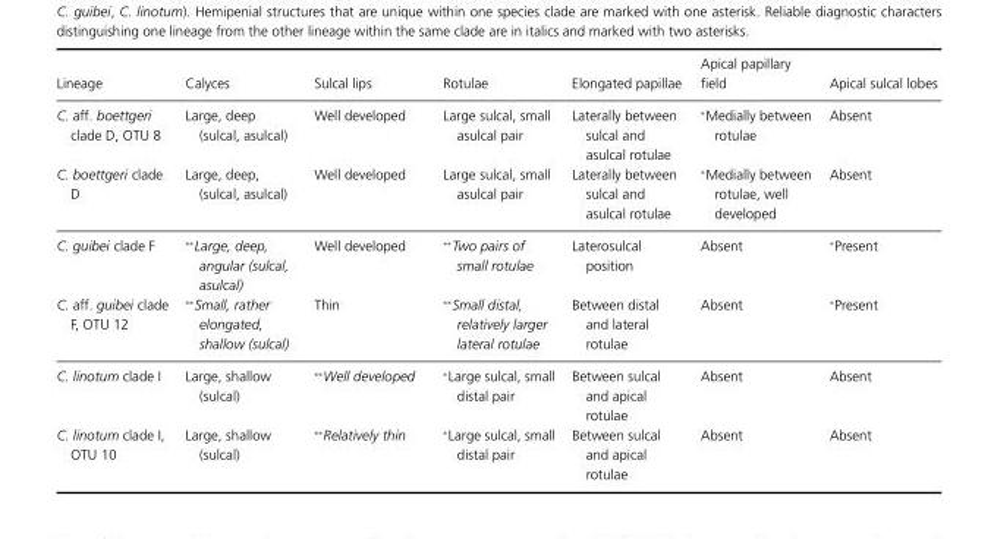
<table><thead><tr><td>Lineage</td><td>Calyces</td><td>Sulcal lips</td><td>Rotulae</td><td>Elongated papillae</td><td>Apical papillary field</td><td>Apical sulcal lobes</td></tr></thead><tbody><tr><td>C. aff. boettgeri clade D, OTU 8</td><td>Large, deep (sulcal, asulcal)</td><td>Well developed</td><td>Large sulcal, small asulcal pair</td><td>Laterally between sulcal and asulcal rotulae</td><td>∗Medially between rotulae</td><td>Absent</td></tr><tr><td>C. boettgeri clade D</td><td>Large, deep, (sulcal, asulcal)</td><td>Well developed</td><td>Large sulcal, small asulcal pair</td><td>Laterally between sulcal and asulcal rotulae</td><td>∗Medially between rotulae, well developed</td><td>Absent</td></tr><tr><td>C. guibei clade F</td><td>∗∗Large, deep, angular (sulcal, asulcal)</td><td>Well developed</td><td>∗∗Two pairs of small rotulae</td><td>Laterosulcal position</td><td>Absent</td><td>∗Present</td></tr><tr><td>C. aff. guibei clade F, OTU 12</td><td>∗∗Small, rather elongated, shallow (sulcal)</td><td>Thin</td><td>∗∗Small distal, relatively larger lateral rotulae</td><td>Between distal and lateral rotulae</td><td>Absent</td><td>∗Present</td></tr><tr><td>C. linotum clade I</td><td>Large, shallow (sulcal)</td><td>∗∗Well developed</td><td>∗Large sulcal, small distal pair</td><td>Between sulcal and apical rotulae</td><td>Absent</td><td>Absent</td></tr><tr><td>C. linotum clade I, OTU 10</td><td>Large, shallow (sulcal)</td><td>∗∗Relatively thin</td><td>∗Large sulcal, small distal pair</td><td>Between sulcal and apical rotulae</td><td>Absent</td><td>Absent</td></tr></tbody></table>